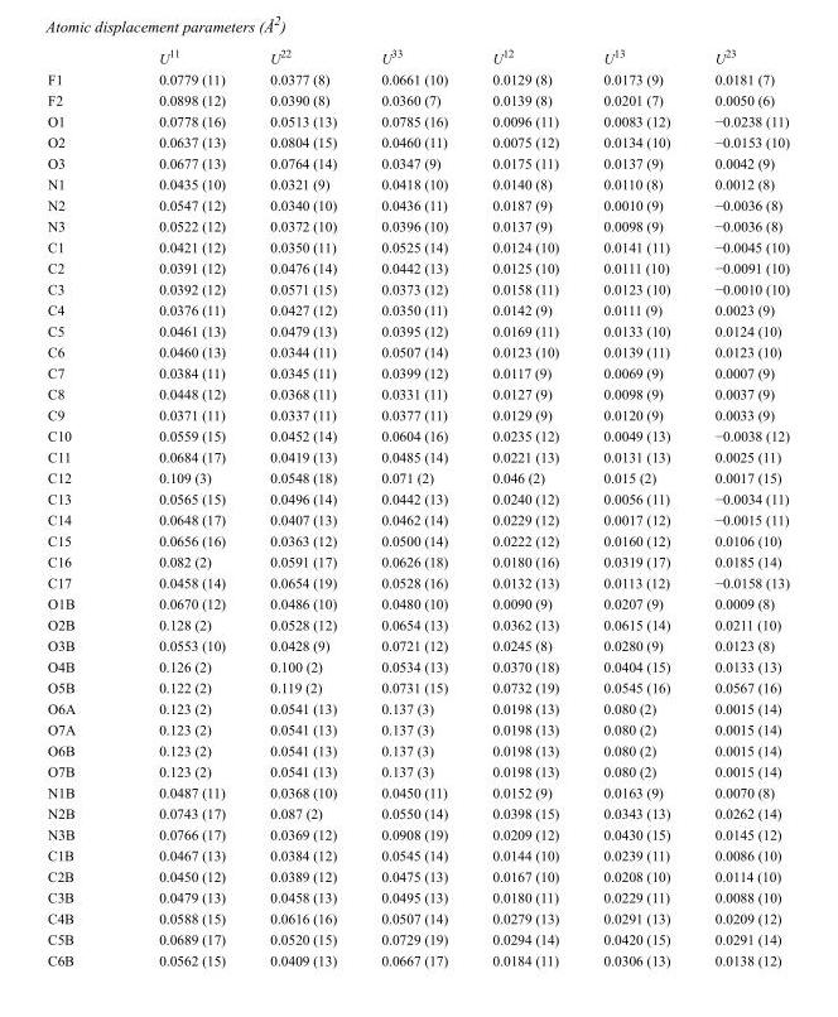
<table><thead><tr><td></td><td>U<sup>11</sup></td><td>U<sup>22</sup></td><td>U<sup>33</sup></td><td>U<sup>12</sup></td><td>U<sup>13</sup></td><td>U<sup>23</sup></td></tr></thead><tbody><tr><td>F1</td><td>0.0779 (11)</td><td>0.0377 (8)</td><td>0.0661 (10)</td><td>0.0129 (8)</td><td>0.0173 (9)</td><td>0.0181 (7)</td></tr><tr><td>F2</td><td>0.0898 (12)</td><td>0.0390 (8)</td><td>0.0360 (7)</td><td>0.0139 (8)</td><td>0.0201 (7)</td><td>0.0050 (6)</td></tr><tr><td>O1</td><td>0.0778 (16)</td><td>0.0513 (13)</td><td>0.0785 (16)</td><td>0.0096 (11)</td><td>0.0083 (12)</td><td>−0.0238 (11)</td></tr><tr><td>O2</td><td>0.0637 (13)</td><td>0.0804 (15)</td><td>0.0460 (11)</td><td>0.0075 (12)</td><td>0.0134 (10)</td><td>−0.0153 (10)</td></tr><tr><td>O3</td><td>0.0677 (13)</td><td>0.0764 (14)</td><td>0.0347 (9)</td><td>0.0175 (11)</td><td>0.0137 (9)</td><td>0.0042 (9)</td></tr><tr><td>N1</td><td>0.0435 (10)</td><td>0.0321 (9)</td><td>0.0418 (10)</td><td>0.0140 (8)</td><td>0.0110 (8)</td><td>0.0012 (8)</td></tr><tr><td>N2</td><td>0.0547 (12)</td><td>0.0340 (10)</td><td>0.0436 (11)</td><td>0.0187 (9)</td><td>0.0010 (9)</td><td>−0.0036 (8)</td></tr><tr><td>N3</td><td>0.0522 (12)</td><td>0.0372 (10)</td><td>0.0396 (10)</td><td>0.0137 (9)</td><td>0.0098 (9)</td><td>−0.0036 (8)</td></tr><tr><td>C1</td><td>0.0421 (12)</td><td>0.0350 (11)</td><td>0.0525 (14)</td><td>0.0124 (10)</td><td>0.0141 (11)</td><td>−0.0045 (10)</td></tr><tr><td>C2</td><td>0.0391 (12)</td><td>0.0476 (14)</td><td>0.0442 (13)</td><td>0.0125 (10)</td><td>0.0111 (10)</td><td>−0.0091 (10)</td></tr><tr><td>C3</td><td>0.0392 (12)</td><td>0.0571 (15)</td><td>0.0373 (12)</td><td>0.0158 (11)</td><td>0.0123 (10)</td><td>−0.0010 (10)</td></tr><tr><td>C4</td><td>0.0376 (11)</td><td>0.0427 (12)</td><td>0.0350 (11)</td><td>0.0142 (9)</td><td>0.0111 (9)</td><td>0.0023 (9)</td></tr><tr><td>C5</td><td>0.0461 (13)</td><td>0.0479 (13)</td><td>0.0395 (12)</td><td>0.0169 (11)</td><td>0.0133 (10)</td><td>0.0124 (10)</td></tr><tr><td>C6</td><td>0.0460 (13)</td><td>0.0344 (11)</td><td>0.0507 (14)</td><td>0.0123 (10)</td><td>0.0139 (11)</td><td>0.0123 (10)</td></tr><tr><td>C7</td><td>0.0384 (11)</td><td>0.0345 (11)</td><td>0.0399 (12)</td><td>0.0117 (9)</td><td>0.0069 (9)</td><td>0.0007 (9)</td></tr><tr><td>C8</td><td>0.0448 (12)</td><td>0.0368 (11)</td><td>0.0331 (11)</td><td>0.0127 (9)</td><td>0.0098 (9)</td><td>0.0037 (9)</td></tr><tr><td>C9</td><td>0.0371 (11)</td><td>0.0337 (11)</td><td>0.0377 (11)</td><td>0.0129 (9)</td><td>0.0120 (9)</td><td>0.0033 (9)</td></tr><tr><td>C10</td><td>0.0559 (15)</td><td>0.0452 (14)</td><td>0.0604 (16)</td><td>0.0235 (12)</td><td>0.0049 (13)</td><td>−0.0038 (12)</td></tr><tr><td>C11</td><td>0.0684 (17)</td><td>0.0419 (13)</td><td>0.0485 (14)</td><td>0.0221 (13)</td><td>0.0131 (13)</td><td>0.0025 (11)</td></tr><tr><td>C12</td><td>0.109 (3)</td><td>0.0548 (18)</td><td>0.071 (2)</td><td>0.046 (2)</td><td>0.015 (2)</td><td>0.0017 (15)</td></tr><tr><td>C13</td><td>0.0565 (15)</td><td>0.0496 (14)</td><td>0.0442 (13)</td><td>0.0240 (12)</td><td>0.0056 (11)</td><td>−0.0034 (11)</td></tr><tr><td>C14</td><td>0.0648 (17)</td><td>0.0407 (13)</td><td>0.0462 (14)</td><td>0.0229 (12)</td><td>0.0017 (12)</td><td>−0.0015 (11)</td></tr><tr><td>C15</td><td>0.0656 (16)</td><td>0.0363 (12)</td><td>0.0500 (14)</td><td>0.0222 (12)</td><td>0.0160 (12)</td><td>0.0106 (10)</td></tr><tr><td>C16</td><td>0.082 (2)</td><td>0.0591 (17)</td><td>0.0626 (18)</td><td>0.0180 (16)</td><td>0.0319 (17)</td><td>0.0185 (14)</td></tr><tr><td>C17</td><td>0.0458 (14)</td><td>0.0654 (19)</td><td>0.0528 (16)</td><td>0.0132 (13)</td><td>0.0113 (12)</td><td>−0.0158 (13)</td></tr><tr><td>O1B</td><td>0.0670 (12)</td><td>0.0486 (10)</td><td>0.0480 (10)</td><td>0.0090 (9)</td><td>0.0207 (9)</td><td>0.0009 (8)</td></tr><tr><td>O2B</td><td>0.128 (2)</td><td>0.0528 (12)</td><td>0.0654 (13)</td><td>0.0362 (13)</td><td>0.0615 (14)</td><td>0.0211 (10)</td></tr><tr><td>O3B</td><td>0.0553 (10)</td><td>0.0428 (9)</td><td>0.0721 (12)</td><td>0.0245 (8)</td><td>0.0280 (9)</td><td>0.0123 (8)</td></tr><tr><td>O4B</td><td>0.126 (2)</td><td>0.100 (2)</td><td>0.0534 (13)</td><td>0.0370 (18)</td><td>0.0404 (15)</td><td>0.0133 (13)</td></tr><tr><td>O5B</td><td>0.122 (2)</td><td>0.119 (2)</td><td>0.0731 (15)</td><td>0.0732 (19)</td><td>0.0545 (16)</td><td>0.0567 (16)</td></tr><tr><td>O6A</td><td>0.123 (2)</td><td>0.0541 (13)</td><td>0.137 (3)</td><td>0.0198 (13)</td><td>0.080 (2)</td><td>0.0015 (14)</td></tr><tr><td>O7A</td><td>0.123 (2)</td><td>0.0541 (13)</td><td>0.137 (3)</td><td>0.0198 (13)</td><td>0.080 (2)</td><td>0.0015 (14)</td></tr><tr><td>O6B</td><td>0.123 (2)</td><td>0.0541 (13)</td><td>0.137 (3)</td><td>0.0198 (13)</td><td>0.080 (2)</td><td>0.0015 (14)</td></tr><tr><td>O7B</td><td>0.123 (2)</td><td>0.0541 (13)</td><td>0.137 (3)</td><td>0.0198 (13)</td><td>0.080 (2)</td><td>0.0015 (14)</td></tr><tr><td>N1B</td><td>0.0487 (11)</td><td>0.0368 (10)</td><td>0.0450 (11)</td><td>0.0152 (9)</td><td>0.0163 (9)</td><td>0.0070 (8)</td></tr><tr><td>N2B</td><td>0.0743 (17)</td><td>0.087 (2)</td><td>0.0550 (14)</td><td>0.0398 (15)</td><td>0.0343 (13)</td><td>0.0262 (14)</td></tr><tr><td>N3B</td><td>0.0766 (17)</td><td>0.0369 (12)</td><td>0.0908 (19)</td><td>0.0209 (12)</td><td>0.0430 (15)</td><td>0.0145 (12)</td></tr><tr><td>C1B</td><td>0.0467 (13)</td><td>0.0384 (12)</td><td>0.0545 (14)</td><td>0.0144 (10)</td><td>0.0239 (11)</td><td>0.0086 (10)</td></tr><tr><td>C2B</td><td>0.0450 (12)</td><td>0.0389 (12)</td><td>0.0475 (13)</td><td>0.0167 (10)</td><td>0.0208 (10)</td><td>0.0114 (10)</td></tr><tr><td>C3B</td><td>0.0479 (13)</td><td>0.0458 (13)</td><td>0.0495 (13)</td><td>0.0180 (11)</td><td>0.0229 (11)</td><td>0.0088 (10)</td></tr><tr><td>C4B</td><td>0.0588 (15)</td><td>0.0616 (16)</td><td>0.0507 (14)</td><td>0.0279 (13)</td><td>0.0291 (13)</td><td>0.0209 (12)</td></tr><tr><td>C5B</td><td>0.0689 (17)</td><td>0.0520 (15)</td><td>0.0729 (19)</td><td>0.0294 (14)</td><td>0.0420 (15)</td><td>0.0291 (14)</td></tr><tr><td>C6B</td><td>0.0562 (15)</td><td>0.0409 (13)</td><td>0.0667 (17)</td><td>0.0184 (11)</td><td>0.0306 (13)</td><td>0.0138 (12)</td></tr></tbody></table>